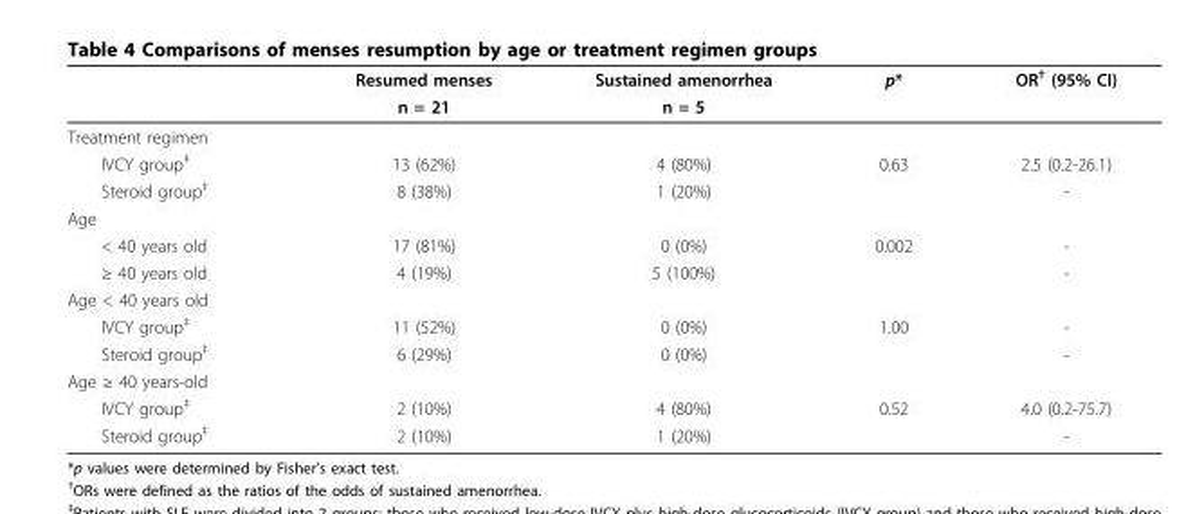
<table><thead><tr><td rowspan="2"></td><td rowspan="2">Resumed menses n = 21</td><td rowspan="2">Sustained amenorrhea n = 5</td><td rowspan="2">p*</td><td rowspan="2">OR<sup>†</sup> (95% CI)</td></tr><tr></tr></thead><tbody><tr><td colspan="5">Treatment regimen</td></tr><tr><td>IVCY group<sup>‡</sup></td><td>13 (62%)</td><td>4 (80%)</td><td>0.63</td><td>2.5 (0.2-26.1)</td></tr><tr><td>Steroid group<sup>‡</sup></td><td>8 (38%)</td><td>1 (20%)</td><td></td><td>-</td></tr><tr><td colspan="5">Age</td></tr><tr><td>&lt; 40 years old</td><td>17 (81%)</td><td>0 (0%)</td><td>0.002</td><td>-</td></tr><tr><td>≥ 40 years old</td><td>4 (19%)</td><td>5 (100%)</td><td></td><td>-</td></tr><tr><td colspan="5">Age &lt; 40 years old</td></tr><tr><td>IVCY group<sup>‡</sup></td><td>11 (52%)</td><td>0 (0%)</td><td>1.00</td><td>-</td></tr><tr><td>Steroid group<sup>‡</sup></td><td>6 (29%)</td><td>0 (0%)</td><td></td><td>-</td></tr><tr><td colspan="5">Age ≥ 40 years-old</td></tr><tr><td>IVCY group<sup>‡</sup></td><td>2 (10%)</td><td>4 (80%)</td><td>0.52</td><td>4.0 (0.2-75.7)</td></tr><tr><td>Steroid group<sup>‡</sup></td><td>2 (10%)</td><td>1 (20%)</td><td></td><td>-</td></tr></tbody></table>